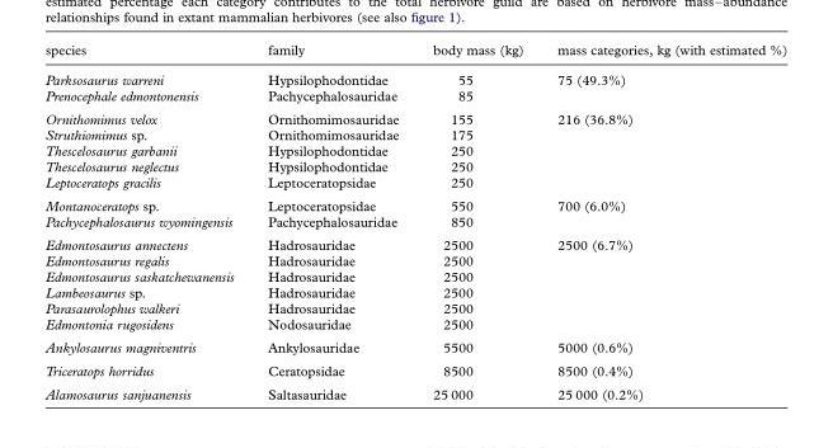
<table><thead><tr><td>species</td><td>family</td><td>body mass (kg)</td><td>mass categories, kg (with estimated %)</td></tr></thead><tbody><tr><td>Parksosaurus warreni</td><td>Hypsilophodontidae</td><td>55</td><td rowspan="2">75 (49.3%)</td></tr><tr><td>Prenocephale edmontonensis</td><td>Pachycephalosauridae</td><td>85</td></tr><tr><td>Ornithomimus velox</td><td>Ornithomimosauridae</td><td>155</td><td rowspan="5">216 (36.8%)</td></tr><tr><td>Struthiomimus sp.</td><td>Ornithomimosauridae</td><td>175</td></tr><tr><td>Thescelosaurus garbanii</td><td>Hypsilophodontidae</td><td>250</td></tr><tr><td>Thescelosaurus neglectus</td><td>Hypsilophodontidae</td><td>250</td></tr><tr><td>Leptoceratops gracilis</td><td>Leptoceratopsidae</td><td>250</td></tr><tr><td>Montanoceratops sp.</td><td>Leptoceratopsidae</td><td>550</td><td rowspan="2">700 (6.0%)</td></tr><tr><td>Pachycephalosaurus wyomingensis</td><td>Pachycephalosauridae</td><td>850</td></tr><tr><td>Edmontosaurus annectens</td><td>Hadrosauridae</td><td>2500</td><td rowspan="6">2500 (6.7%)</td></tr><tr><td>Edmontosaurus regalis</td><td>Hadrosauridae</td><td>2500</td></tr><tr><td>Edmontosaurus saskatchewanensis</td><td>Hadrosauridae</td><td>2500</td></tr><tr><td>Lambeosaurus sp.</td><td>Hadrosauridae</td><td>2500</td></tr><tr><td>Parasaurolophus walkeri</td><td>Hadrosauridae</td><td>2500</td></tr><tr><td>Edmontonia rugosidens</td><td>Nodosauridae</td><td>2500</td></tr><tr><td>Ankylosaurus magniventris</td><td>Ankylosauridae</td><td>5500</td><td>5000 (0.6%)</td></tr><tr><td>Triceratops horridus</td><td>Ceratopsidae</td><td>8500</td><td>8500 (0.4%)</td></tr><tr><td>Alamosaurus sanjuanensis</td><td>Saltasauridae</td><td>25 000</td><td>25 000 (0.2%)</td></tr></tbody></table>